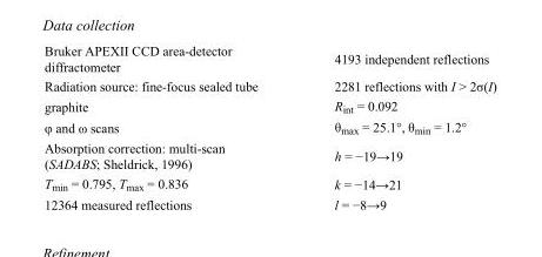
<table><tbody><tr><td>Bruker APEXII CCD area-detector diffractometer</td><td>4193 independent reflections</td></tr><tr><td>Radiation source: fine-focus sealed tube</td><td>2281 reflections with I &gt; 2σ(I)</td></tr><tr><td>graphite</td><td>R<sub>int</sub> = 0.092</td></tr><tr><td>φ and ω scans</td><td>θ<sub>max</sub> = 25.1°, θ<sub>min</sub> = 1.2°</td></tr><tr><td>Absorption correction: multi-scan (SADABS; Sheldrick, 1996)</td><td>h = −19→19</td></tr><tr><td>T<sub>min</sub> = 0.795, T<sub>max</sub> = 0.836</td><td>k = −14→21</td></tr><tr><td>12364 measured reflections</td><td>l = −8→9</td></tr></tbody></table>